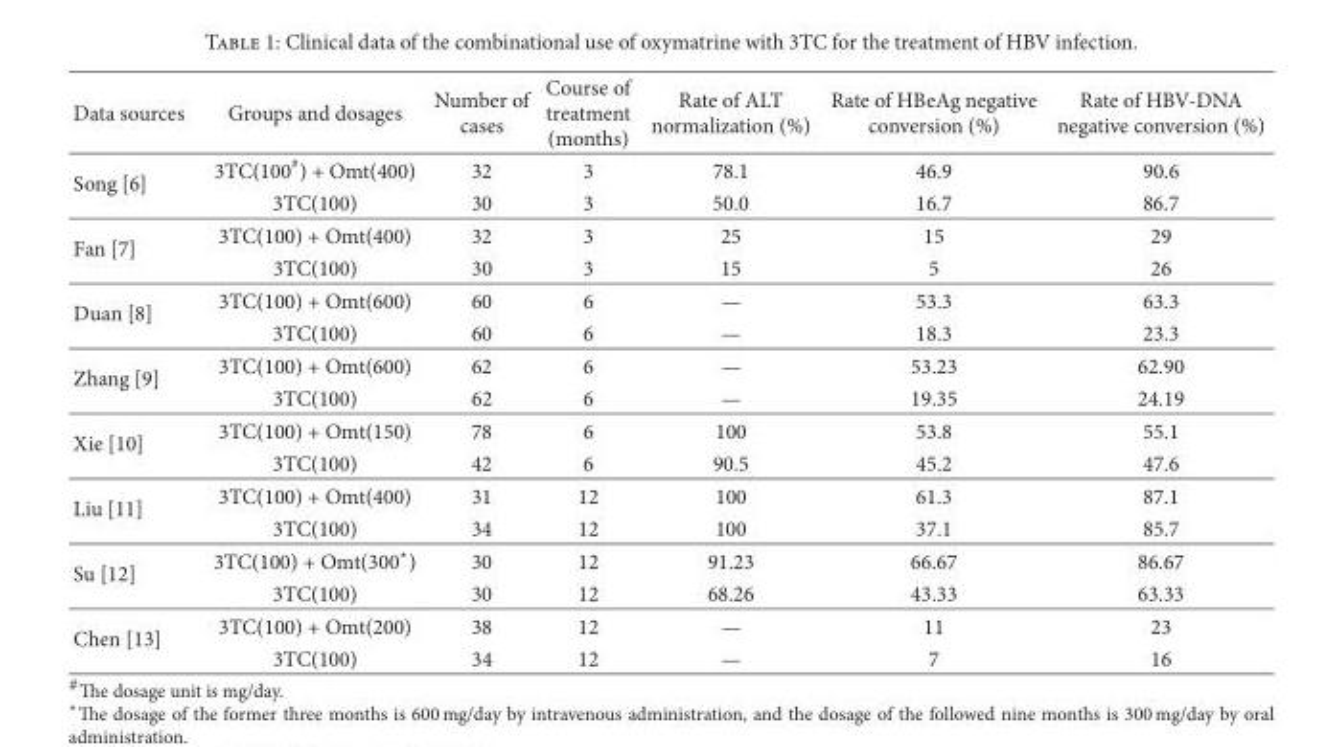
<table><thead><tr><td>Data sources</td><td>Groups and dosages</td><td>Number of cases</td><td>Course of treatment (months)</td><td>Rate of ALT normalization (%)</td><td>Rate of HBeAg negative conversion (%)</td><td>Rate of HBV-DNA negative conversion (%)</td></tr></thead><tbody><tr><td rowspan="2">Song [6]</td><td>3TC(100<sup>#</sup>) + Omt(400)</td><td>32</td><td>3</td><td>78.1</td><td>46.9</td><td>90.6</td></tr><tr><td>3TC(100)</td><td>30</td><td>3</td><td>50.0</td><td>16.7</td><td>86.7</td></tr><tr><td rowspan="2">Fan [7]</td><td>3TC(100) + Omt(400)</td><td>32</td><td>3</td><td>25</td><td>15</td><td>29</td></tr><tr><td>3TC(100)</td><td>30</td><td>3</td><td>15</td><td>5</td><td>26</td></tr><tr><td rowspan="2">Duan [8]</td><td>3TC(100) + Omt(600)</td><td>60</td><td>6</td><td>—</td><td>53.3</td><td>63.3</td></tr><tr><td>3TC(100)</td><td>60</td><td>6</td><td>—</td><td>18.3</td><td>23.3</td></tr><tr><td rowspan="2">Zhang [9]</td><td>3TC(100) + Omt(600)</td><td>62</td><td>6</td><td>—</td><td>53.23</td><td>62.90</td></tr><tr><td>3TC(100)</td><td>62</td><td>6</td><td>—</td><td>19.35</td><td>24.19</td></tr><tr><td rowspan="2">Xie [10]</td><td>3TC(100) + Omt(150)</td><td>78</td><td>6</td><td>100</td><td>53.8</td><td>55.1</td></tr><tr><td>3TC(100)</td><td>42</td><td>6</td><td>90.5</td><td>45.2</td><td>47.6</td></tr><tr><td rowspan="2">Liu [11]</td><td>3TC(100) + Omt(400)</td><td>31</td><td>12</td><td>100</td><td>61.3</td><td>87.1</td></tr><tr><td>3TC(100)</td><td>34</td><td>12</td><td>100</td><td>37.1</td><td>85.7</td></tr><tr><td rowspan="2">Su [12]</td><td>3TC(100) + Omt(300⋆)</td><td>30</td><td>12</td><td>91.23</td><td>66.67</td><td>86.67</td></tr><tr><td>3TC(100)</td><td>30</td><td>12</td><td>68.26</td><td>43.33</td><td>63.33</td></tr><tr><td rowspan="2">Chen [13]</td><td>3TC(100) + Omt(200)</td><td>38</td><td>12</td><td>—</td><td>11</td><td>23</td></tr><tr><td>3TC(100)</td><td>34</td><td>12</td><td>—</td><td>7</td><td>16</td></tr></tbody></table>